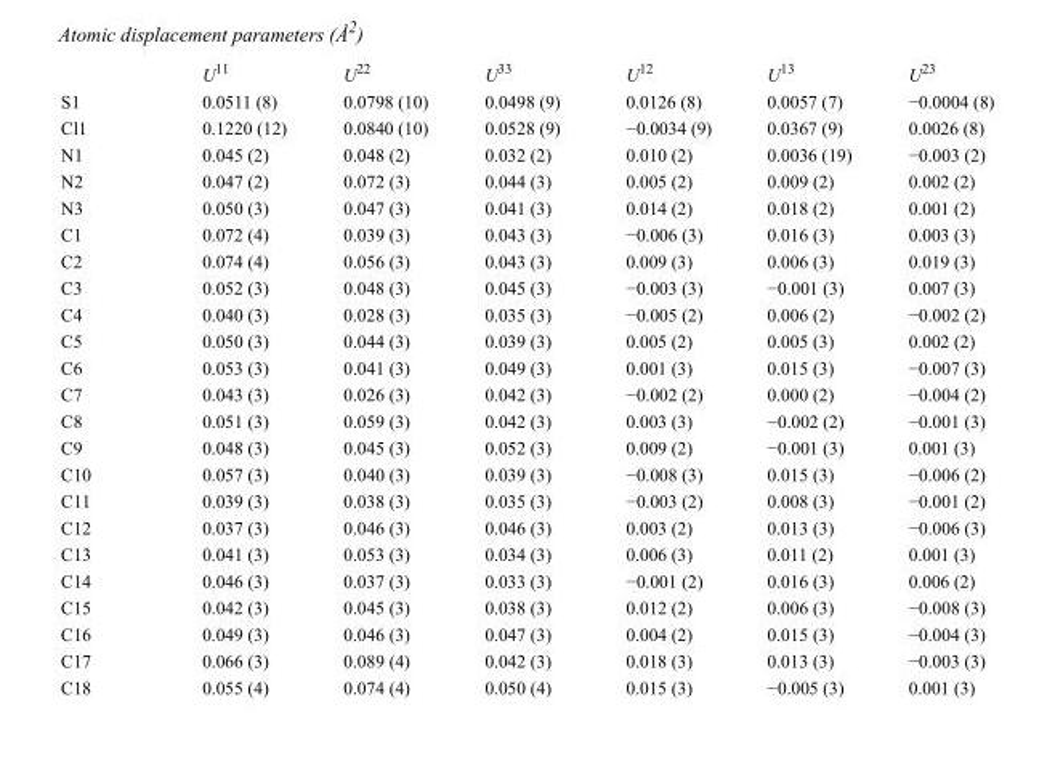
<table><thead><tr><td></td><td>U<sup>11</sup></td><td>U<sup>22</sup></td><td>U<sup>33</sup></td><td>U<sup>12</sup></td><td>U<sup>13</sup></td><td>U<sup>23</sup></td></tr></thead><tbody><tr><td>S1</td><td>0.0511 (8)</td><td>0.0798 (10)</td><td>0.0498 (9)</td><td>0.0126 (8)</td><td>0.0057 (7)</td><td>−0.0004 (8)</td></tr><tr><td>Cl1</td><td>0.1220 (12)</td><td>0.0840 (10)</td><td>0.0528 (9)</td><td>−0.0034 (9)</td><td>0.0367 (9)</td><td>0.0026 (8)</td></tr><tr><td>N1</td><td>0.045 (2)</td><td>0.048 (2)</td><td>0.032 (2)</td><td>0.010 (2)</td><td>0.0036 (19)</td><td>−0.003 (2)</td></tr><tr><td>N2</td><td>0.047 (2)</td><td>0.072 (3)</td><td>0.044 (3)</td><td>0.005 (2)</td><td>0.009 (2)</td><td>0.002 (2)</td></tr><tr><td>N3</td><td>0.050 (3)</td><td>0.047 (3)</td><td>0.041 (3)</td><td>0.014 (2)</td><td>0.018 (2)</td><td>0.001 (2)</td></tr><tr><td>C1</td><td>0.072 (4)</td><td>0.039 (3)</td><td>0.043 (3)</td><td>−0.006 (3)</td><td>0.016 (3)</td><td>0.003 (3)</td></tr><tr><td>C2</td><td>0.074 (4)</td><td>0.056 (3)</td><td>0.043 (3)</td><td>0.009 (3)</td><td>0.006 (3)</td><td>0.019 (3)</td></tr><tr><td>C3</td><td>0.052 (3)</td><td>0.048 (3)</td><td>0.045 (3)</td><td>−0.003 (3)</td><td>−0.001 (3)</td><td>0.007 (3)</td></tr><tr><td>C4</td><td>0.040 (3)</td><td>0.028 (3)</td><td>0.035 (3)</td><td>−0.005 (2)</td><td>0.006 (2)</td><td>−0.002 (2)</td></tr><tr><td>C5</td><td>0.050 (3)</td><td>0.044 (3)</td><td>0.039 (3)</td><td>0.005 (2)</td><td>0.005 (3)</td><td>0.002 (2)</td></tr><tr><td>C6</td><td>0.053 (3)</td><td>0.041 (3)</td><td>0.049 (3)</td><td>0.001 (3)</td><td>0.015 (3)</td><td>−0.007 (3)</td></tr><tr><td>C7</td><td>0.043 (3)</td><td>0.026 (3)</td><td>0.042 (3)</td><td>−0.002 (2)</td><td>0.000 (2)</td><td>−0.004 (2)</td></tr><tr><td>C8</td><td>0.051 (3)</td><td>0.059 (3)</td><td>0.042 (3)</td><td>0.003 (3)</td><td>−0.002 (2)</td><td>−0.001 (3)</td></tr><tr><td>C9</td><td>0.048 (3)</td><td>0.045 (3)</td><td>0.052 (3)</td><td>0.009 (2)</td><td>−0.001 (3)</td><td>0.001 (3)</td></tr><tr><td>C10</td><td>0.057 (3)</td><td>0.040 (3)</td><td>0.039 (3)</td><td>−0.008 (3)</td><td>0.015 (3)</td><td>−0.006 (2)</td></tr><tr><td>C11</td><td>0.039 (3)</td><td>0.038 (3)</td><td>0.035 (3)</td><td>−0.003 (2)</td><td>0.008 (3)</td><td>−0.001 (2)</td></tr><tr><td>C12</td><td>0.037 (3)</td><td>0.046 (3)</td><td>0.046 (3)</td><td>0.003 (2)</td><td>0.013 (3)</td><td>−0.006 (3)</td></tr><tr><td>C13</td><td>0.041 (3)</td><td>0.053 (3)</td><td>0.034 (3)</td><td>0.006 (3)</td><td>0.011 (2)</td><td>0.001 (3)</td></tr><tr><td>C14</td><td>0.046 (3)</td><td>0.037 (3)</td><td>0.033 (3)</td><td>−0.001 (2)</td><td>0.016 (3)</td><td>0.006 (2)</td></tr><tr><td>C15</td><td>0.042 (3)</td><td>0.045 (3)</td><td>0.038 (3)</td><td>0.012 (2)</td><td>0.006 (3)</td><td>−0.008 (3)</td></tr><tr><td>C16</td><td>0.049 (3)</td><td>0.046 (3)</td><td>0.047 (3)</td><td>0.004 (2)</td><td>0.015 (3)</td><td>−0.004 (3)</td></tr><tr><td>C17</td><td>0.066 (3)</td><td>0.089 (4)</td><td>0.042 (3)</td><td>0.018 (3)</td><td>0.013 (3)</td><td>−0.003 (3)</td></tr><tr><td>C18</td><td>0.055 (4)</td><td>0.074 (4)</td><td>0.050 (4)</td><td>0.015 (3)</td><td>−0.005 (3)</td><td>0.001 (3)</td></tr></tbody></table>